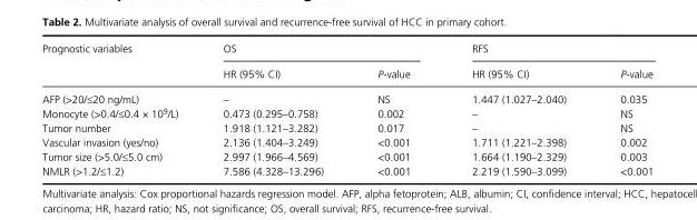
<table><thead><tr><td rowspan="2">Prognostic variables</td><td colspan="2">OS</td><td colspan="2">RFS</td></tr><tr><td>HR (95% CI)</td><td>P- value</td><td>HR (95% CI)</td><td>P- value</td></tr></thead><tbody><tr><td>AFP (&gt;20/≤20 ng/mL)</td><td>–</td><td>NS</td><td>1.447 (1.027–2.040)</td><td>0.035</td></tr><tr><td>Monocyte (&gt;0.4/≤0.4 × 10<sup>9</sup>/L)</td><td>0.473 (0.295–0.758)</td><td>0.002</td><td>–</td><td>NS</td></tr><tr><td>Tumor number</td><td>1.918 (1.121–3.282)</td><td>0.017</td><td>–</td><td>NS</td></tr><tr><td>Vascular invasion (yes/no)</td><td>2.136 (1.404–3.249)</td><td>&lt;0.001</td><td>1.711 (1.221–2.398)</td><td>0.002</td></tr><tr><td>Tumor size (&gt;5.0/≤5.0 cm)</td><td>2.997 (1.966–4.569)</td><td>&lt;0.001</td><td>1.664 (1.190–2.329)</td><td>0.003</td></tr><tr><td>NMLR (&gt;1.2/≤1.2)</td><td>7.586 (4.328–13.296)</td><td>&lt;0.001</td><td>2.219 (1.590–3.099)</td><td>&lt;0.001</td></tr></tbody></table>